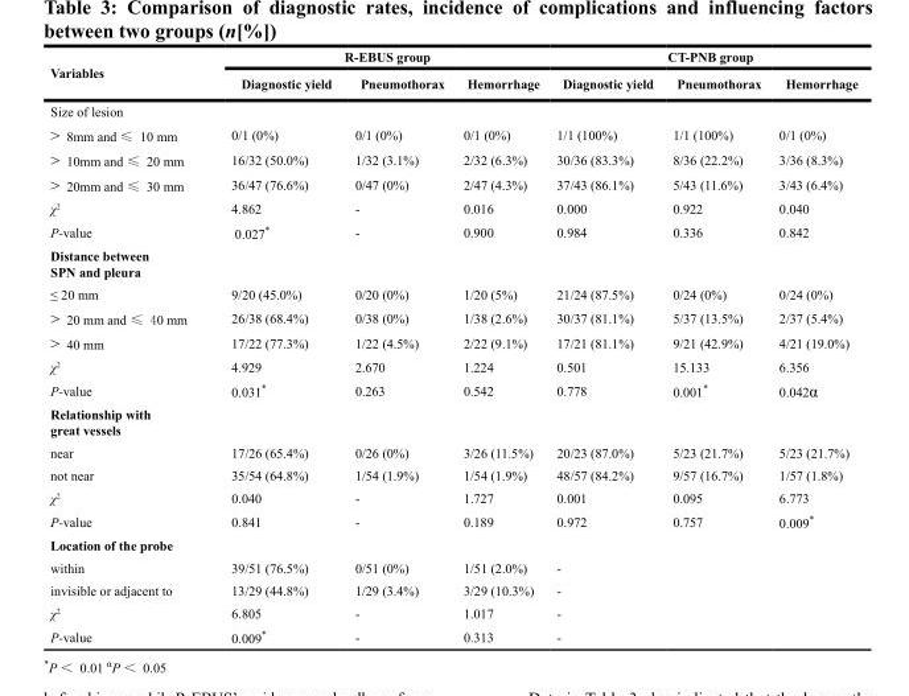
<table><thead><tr><td rowspan="2">Variables</td><td colspan="3">R-EBUS group</td><td colspan="3">CT-PNB group</td></tr><tr><td>Diagnostic yield</td><td>Pneumothorax</td><td>Hemorrhage</td><td>Diagnostic yield</td><td>Pneumothorax</td><td>Hemorrhage</td></tr></thead><tbody><tr><td colspan="7">Size of lesion</td></tr><tr><td>&gt; 8mm and ≤ 10 mm</td><td>0/1 (0%)</td><td>0/1 (0%)</td><td>0/1 (0%)</td><td>1/1 (100%)</td><td>1/1 (100%)</td><td>0/1 (0%)</td></tr><tr><td>&gt; 10mm and ≤ 20 mm</td><td>16/32 (50.0%)</td><td>1/32 (3.1%)</td><td>2/32 (6.3%)</td><td>30/36 (83.3%)</td><td>8/36 (22.2%)</td><td>3/36 (8.3%)</td></tr><tr><td>&gt; 20mm and ≤ 30 mm</td><td>36/47 (76.6%)</td><td>0/47 (0%)</td><td>2/47 (4.3%)</td><td>37/43 (86.1%)</td><td>5/43 (11.6%)</td><td>3/43 (6.4%)</td></tr><tr><td>χ<sup>2</sup></td><td>4.862</td><td>-</td><td>0.016</td><td>0.000</td><td>0.922</td><td>0.040</td></tr><tr><td>P-value</td><td>0.027*</td><td>-</td><td>0.900</td><td>0.984</td><td>0.336</td><td>0.842</td></tr><tr><td colspan="7">Distance between SPN and pleura</td></tr><tr><td>≤ 20 mm</td><td>9/20 (45.0%)</td><td>0/20 (0%)</td><td>1/20 (5%)</td><td>21/24 (87.5%)</td><td>0/24 (0%)</td><td>0/24 (0%)</td></tr><tr><td>&gt; 20 mm and ≤ 40 mm</td><td>26/38 (68.4%)</td><td>0/38 (0%)</td><td>1/38 (2.6%)</td><td>30/37 (81.1%)</td><td>5/37 (13.5%)</td><td>2/37 (5.4%)</td></tr><tr><td>&gt; 40 mm</td><td>17/22 (77.3%)</td><td>1/22 (4.5%)</td><td>2/22 (9.1%)</td><td>17/21 (81.1%)</td><td>9/21 (42.9%)</td><td>4/21 (19.0%)</td></tr><tr><td>χ<sup>2</sup></td><td>4.929</td><td>2.670</td><td>1.224</td><td>0.501</td><td>15.133</td><td>6.356</td></tr><tr><td>P-value</td><td>0.031*</td><td>0.263</td><td>0.542</td><td>0.778</td><td>0.001*</td><td>0.042α</td></tr><tr><td colspan="7">Relationship with great vessels</td></tr><tr><td>near</td><td>17/26 (65.4%)</td><td>0/26 (0%)</td><td>3/26 (11.5%)</td><td>20/23 (87.0%)</td><td>5/23 (21.7%)</td><td>5/23 (21.7%)</td></tr><tr><td>not near</td><td>35/54 (64.8%)</td><td>1/54 (1.9%)</td><td>1/54 (1.9%)</td><td>48/57 (84.2%)</td><td>9/57 (16.7%)</td><td>1/57 (1.8%)</td></tr><tr><td>χ<sup>2</sup></td><td>0.040</td><td>-</td><td>1.727</td><td>0.001</td><td>0.095</td><td>6.773</td></tr><tr><td>P-value</td><td>0.841</td><td>-</td><td>0.189</td><td>0.972</td><td>0.757</td><td>0.009*</td></tr><tr><td colspan="7">Location of the probe</td></tr><tr><td>within</td><td>39/51 (76.5%)</td><td>0/51 (0%)</td><td>1/51 (2.0%)</td><td>-</td><td></td><td></td></tr><tr><td>invisible or adjacent to</td><td>13/29 (44.8%)</td><td>1/29 (3.4%)</td><td>3/29 (10.3%)</td><td>-</td><td></td><td></td></tr><tr><td>χ<sup>2</sup></td><td>6.805</td><td>-</td><td>1.017</td><td>-</td><td></td><td></td></tr><tr><td>P-value</td><td>0.009*</td><td>-</td><td>0.313</td><td>-</td><td></td><td></td></tr></tbody></table>